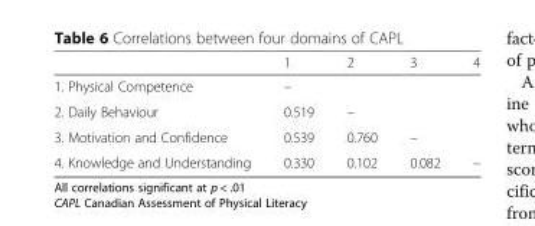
<table><thead><tr><td></td><td>1</td><td>2</td><td>3</td><td>4</td></tr></thead><tbody><tr><td>1. Physical Competence</td><td>–</td><td></td><td></td><td></td></tr><tr><td>2. Daily Behaviour</td><td>0.519</td><td>–</td><td></td><td></td></tr><tr><td>3. Motivation and Confidence</td><td>0.539</td><td>0.760</td><td>–</td><td></td></tr><tr><td>4. Knowledge and Understanding</td><td>0.330</td><td>0.102</td><td>0.082</td><td>–</td></tr></tbody></table>